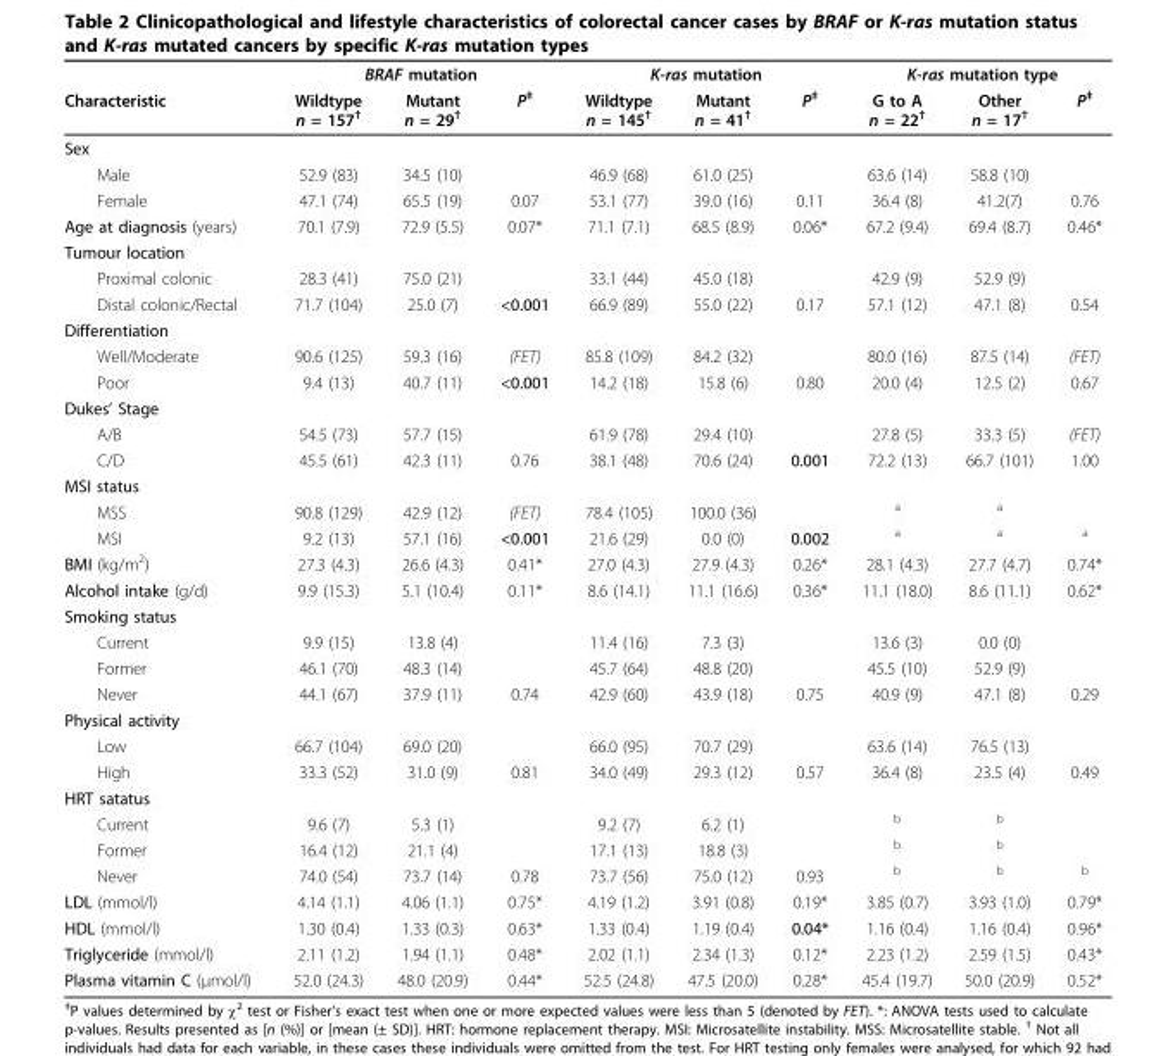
<table><thead><tr><td rowspan="2">Characteristic</td><td colspan="3">BRAF mutation</td><td colspan="3">K-ras mutation</td><td colspan="3">K-ras mutation type</td></tr><tr><td>Wildtype n = 157<sup>†</sup></td><td>Mutant n = 29<sup>†</sup></td><td>P<sup>‡</sup></td><td>Wildtype n = 145<sup>†</sup></td><td>Mutant n = 41<sup>†</sup></td><td>P<sup>‡</sup></td><td>G to A n = 22<sup>†</sup></td><td>Other n = 17<sup>†</sup></td><td>P<sup>‡</sup></td></tr></thead><tbody><tr><td colspan="10">Sex</td></tr><tr><td>Male</td><td>52.9 (83)</td><td>34.5 (10)</td><td></td><td>46.9 (68)</td><td>61.0 (25)</td><td></td><td>63.6 (14)</td><td>58.8 (10)</td><td></td></tr><tr><td>Female</td><td>47.1 (74)</td><td>65.5 (19)</td><td>0.07</td><td>53.1 (77)</td><td>39.0 (16)</td><td>0.11</td><td>36.4 (8)</td><td>41.2(7)</td><td>0.76</td></tr><tr><td>Age at diagnosis (years)</td><td>70.1 (7.9)</td><td>72.9 (5.5)</td><td>0.07*</td><td>71.1 (7.1)</td><td>68.5 (8.9)</td><td>0.06*</td><td>67.2 (9.4)</td><td>69.4 (8.7)</td><td>0.46*</td></tr><tr><td colspan="10">Tumour location</td></tr><tr><td>Proximal colonic</td><td>28.3 (41)</td><td>75.0 (21)</td><td></td><td>33.1 (44)</td><td>45.0 (18)</td><td></td><td>42.9 (9)</td><td>52.9 (9)</td><td></td></tr><tr><td>Distal colonic/Rectal</td><td>71.7 (104)</td><td>25.0 (7)</td><td>&lt;0.001</td><td>66.9 (89)</td><td>55.0 (22)</td><td>0.17</td><td>57.1 (12)</td><td>47.1 (8)</td><td>0.54</td></tr><tr><td colspan="10">Differentiation</td></tr><tr><td>Well/Moderate</td><td>90.6 (125)</td><td>59.3 (16)</td><td>(FET)</td><td>85.8 (109)</td><td>84.2 (32)</td><td></td><td>80.0 (16)</td><td>87.5 (14)</td><td>(FET)</td></tr><tr><td>Poor</td><td>9.4 (13)</td><td>40.7 (11)</td><td>&lt;0.001</td><td>14.2 (18)</td><td>15.8 (6)</td><td>0.80</td><td>20.0 (4)</td><td>12.5 (2)</td><td>0.67</td></tr><tr><td colspan="10">Dukes’ Stage</td></tr><tr><td>A/B</td><td>54.5 (73)</td><td>57.7 (15)</td><td></td><td>61.9 (78)</td><td>29.4 (10)</td><td></td><td>27.8 (5)</td><td>33.3 (5)</td><td>(FET)</td></tr><tr><td>C/D</td><td>45.5 (61)</td><td>42.3 (11)</td><td>0.76</td><td>38.1 (48)</td><td>70.6 (24)</td><td>0.001</td><td>72.2 (13)</td><td>66.7 (101)</td><td>1.00</td></tr><tr><td colspan="10">MSI status</td></tr><tr><td>MSS</td><td>90.8 (129)</td><td>42.9 (12)</td><td>(FET)</td><td>78.4 (105)</td><td>100.0 (36)</td><td></td><td><sup>a</sup></td><td><sup>a</sup></td><td></td></tr><tr><td>MSI</td><td>9.2 (13)</td><td>57.1 (16)</td><td>&lt;0.001</td><td>21.6 (29)</td><td>0.0 (0)</td><td>0.002</td><td><sup>a</sup></td><td><sup>a</sup></td><td><sup>a</sup></td></tr><tr><td>BMI (kg/m<sup>2</sup>)</td><td>27.3 (4.3)</td><td>26.6 (4.3)</td><td>0.41*</td><td>27.0 (4.3)</td><td>27.9 (4.3)</td><td>0.26*</td><td>28.1 (4.3)</td><td>27.7 (4.7)</td><td>0.74*</td></tr><tr><td>Alcohol intake (g/d)</td><td>9.9 (15.3)</td><td>5.1 (10.4)</td><td>0.11*</td><td>8.6 (14.1)</td><td>11.1 (16.6)</td><td>0.36*</td><td>11.1 (18.0)</td><td>8.6 (11.1)</td><td>0.62*</td></tr><tr><td colspan="10">Smoking status</td></tr><tr><td>Current</td><td>9.9 (15)</td><td>13.8 (4)</td><td></td><td>11.4 (16)</td><td>7.3 (3)</td><td></td><td>13.6 (3)</td><td>0.0 (0)</td><td></td></tr><tr><td>Former</td><td>46.1 (70)</td><td>48.3 (14)</td><td></td><td>45.7 (64)</td><td>48.8 (20)</td><td></td><td>45.5 (10)</td><td>52.9 (9)</td><td></td></tr><tr><td>Never</td><td>44.1 (67)</td><td>37.9 (11)</td><td>0.74</td><td>42.9 (60)</td><td>43.9 (18)</td><td>0.75</td><td>40.9 (9)</td><td>47.1 (8)</td><td>0.29</td></tr><tr><td colspan="10">Physical activity</td></tr><tr><td>Low</td><td>66.7 (104)</td><td>69.0 (20)</td><td></td><td>66.0 (95)</td><td>70.7 (29)</td><td></td><td>63.6 (14)</td><td>76.5 (13)</td><td></td></tr><tr><td>High</td><td>33.3 (52)</td><td>31.0 (9)</td><td>0.81</td><td>34.0 (49)</td><td>29.3 (12)</td><td>0.57</td><td>36.4 (8)</td><td>23.5 (4)</td><td>0.49</td></tr><tr><td colspan="10">HRT satatus</td></tr><tr><td>Current</td><td>9.6 (7)</td><td>5.3 (1)</td><td></td><td>9.2 (7)</td><td>6.2 (1)</td><td></td><td><sup>b</sup></td><td><sup>b</sup></td><td></td></tr><tr><td>Former</td><td>16.4 (12)</td><td>21.1 (4)</td><td></td><td>17.1 (13)</td><td>18.8 (3)</td><td></td><td><sup>b</sup></td><td><sup>b</sup></td><td></td></tr><tr><td>Never</td><td>74.0 (54)</td><td>73.7 (14)</td><td>0.78</td><td>73.7 (56)</td><td>75.0 (12)</td><td>0.93</td><td><sup>b</sup></td><td><sup>b</sup></td><td><sup>b</sup></td></tr><tr><td>LDL (mmol/l)</td><td>4.14 (1.1)</td><td>4.06 (1.1)</td><td>0.75*</td><td>4.19 (1.2)</td><td>3.91 (0.8)</td><td>0.19*</td><td>3.85 (0.7)</td><td>3.93 (1.0)</td><td>0.79*</td></tr><tr><td>HDL (mmol/l)</td><td>1.30 (0.4)</td><td>1.33 (0.3)</td><td>0.63*</td><td>1.33 (0.4)</td><td>1.19 (0.4)</td><td>0.04*</td><td>1.16 (0.4)</td><td>1.16 (0.4)</td><td>0.96*</td></tr><tr><td>Triglyceride (mmol/l)</td><td>2.11 (1.2)</td><td>1.94 (1.1)</td><td>0.48*</td><td>2.02 (1.1)</td><td>2.34 (1.3)</td><td>0.12*</td><td>2.23 (1.2)</td><td>2.59 (1.5)</td><td>0.43*</td></tr><tr><td>Plasma vitamin C (μmol/l)</td><td>52.0 (24.3)</td><td>48.0 (20.9)</td><td>0.44*</td><td>52.5 (24.8)</td><td>47.5 (20.0)</td><td>0.28*</td><td>45.4 (19.7)</td><td>50.0 (20.9)</td><td>0.52*</td></tr></tbody></table>